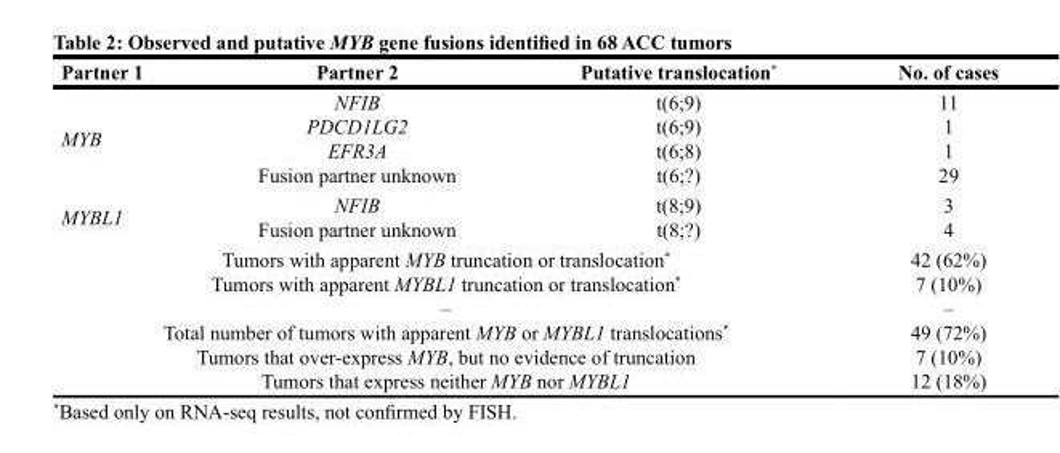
<table><thead><tr><td>Partner 1</td><td>Partner 2</td><td>Putative translocation*</td><td>No. of cases</td></tr></thead><tbody><tr><td>MYB</td><td>NFIB PDCD1LG2 EFR3A Fusion partner unknown</td><td>t(6;9) t(6;9) t(6;8) t(6;?)</td><td>11 1 1 29</td></tr><tr><td>MYBL1</td><td>NFIB Fusion partner unknown</td><td>t(8;9) t(8;?)</td><td>3 4</td></tr><tr><td colspan="3">Tumors with apparent MYB truncation or translocation* Tumors with apparent MYBL1 truncation or translocation* – Total number of tumors with apparent MYB or MYBL1 translocations* Tumors that over-express MYB, but no evidence of truncation Tumors that express neither MYB nor MYBL1</td><td>42 (62%) 7 (10%) – 49 (72%) 7 (10%) 12 (18%)</td></tr></tbody></table>